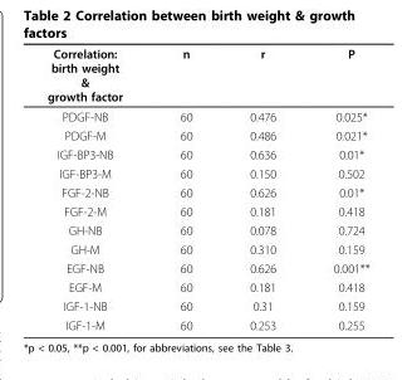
<table><thead><tr><td>Correlation: birth weight &amp; growth factor</td><td>n</td><td>r</td><td>P</td></tr></thead><tbody><tr><td>PDGF-NB</td><td>60</td><td>0.476</td><td>0.025*</td></tr><tr><td>PDGF-M</td><td>60</td><td>0.486</td><td>0.021*</td></tr><tr><td>IGF-BP3-NB</td><td>60</td><td>0.636</td><td>0.01*</td></tr><tr><td>IGF-BP3-M</td><td>60</td><td>0.150</td><td>0.502</td></tr><tr><td>FGF-2-NB</td><td>60</td><td>0.626</td><td>0.01*</td></tr><tr><td>FGF-2-M</td><td>60</td><td>0.181</td><td>0.418</td></tr><tr><td>GH-NB</td><td>60</td><td>0.078</td><td>0.724</td></tr><tr><td>GH-M</td><td>60</td><td>0.310</td><td>0.159</td></tr><tr><td>EGF-NB</td><td>60</td><td>0.626</td><td>0.001**</td></tr><tr><td>EGF-M</td><td>60</td><td>0.181</td><td>0.418</td></tr><tr><td>IGF-1-NB</td><td>60</td><td>0.31</td><td>0.159</td></tr><tr><td>IGF-1-M</td><td>60</td><td>0.253</td><td>0.255</td></tr></tbody></table>